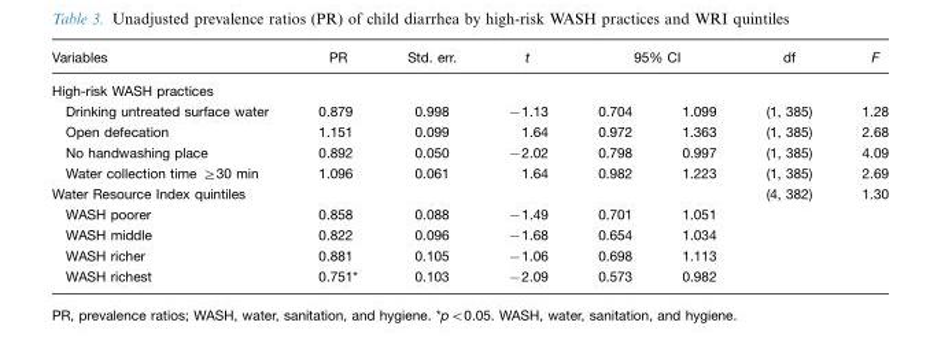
<table><thead><tr><td rowspan="2">Variables High-risk WASH practices</td><td rowspan="2">PR</td><td rowspan="2">Std. err.</td><td rowspan="2">t</td><td colspan="2">95% CI</td><td rowspan="2">df</td><td rowspan="2">F</td></tr><tr><td></td><td></td></tr></thead><tbody><tr><td>Drinking untreated surface water</td><td>0.879</td><td>0.998</td><td>−1.13</td><td>0.704</td><td>1.099</td><td>(1, 385)</td><td>1.28</td></tr><tr><td>Open defecation</td><td>1.151</td><td>0.099</td><td>1.64</td><td>0.972</td><td>1.363</td><td>(1, 385)</td><td>2.68</td></tr><tr><td>No handwashing place</td><td>0.892</td><td>0.050</td><td>−2.02</td><td>0.798</td><td>0.997</td><td>(1, 385)</td><td>4.09</td></tr><tr><td>Water collection time ≥30 min</td><td>1.096</td><td>0.061</td><td>1.64</td><td>0.982</td><td>1.223</td><td>(1, 385)</td><td>2.69</td></tr><tr><td>Water Resource Index quintiles</td><td></td><td></td><td></td><td></td><td></td><td>(4, 382)</td><td>1.30</td></tr><tr><td>WASH poorer</td><td>0.858</td><td>0.088</td><td>−1.49</td><td>0.701</td><td>1.051</td><td></td><td></td></tr><tr><td>WASH middle</td><td>0.822</td><td>0.096</td><td>−1.68</td><td>0.654</td><td>1.034</td><td></td><td></td></tr><tr><td>WASH richer</td><td>0.881</td><td>0.105</td><td>−1.06</td><td>0.698</td><td>1.113</td><td></td><td></td></tr><tr><td>WASH richest</td><td>0.751*</td><td>0.103</td><td>−2.09</td><td>0.573</td><td>0.982</td><td></td><td></td></tr></tbody></table>